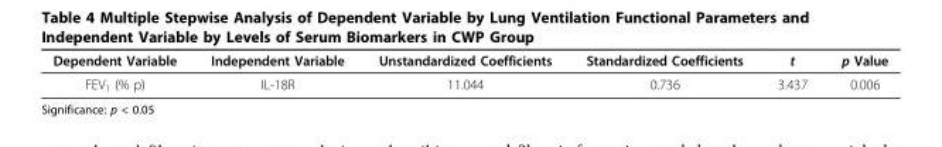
<table><thead><tr><td>Dependent Variable</td><td>Independent Variable</td><td>Unstandardized Coefficients</td><td>Standardized Coefficients</td><td>t</td><td>p Value</td></tr></thead><tbody><tr><td>FEV<sub>1</sub> (% p)</td><td>IL-18R</td><td>11.044</td><td>0.736</td><td>3.437</td><td>0.006</td></tr></tbody></table>